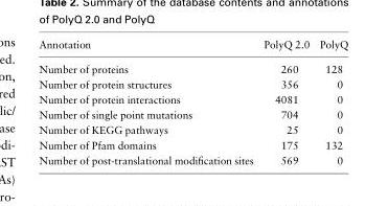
<table><thead><tr><td>Annotation</td><td>PolyQ 2.0</td><td>PolyQ</td></tr></thead><tbody><tr><td>Number of proteins</td><td>260</td><td>128</td></tr><tr><td>Number of protein structures</td><td>356</td><td>0</td></tr><tr><td>Number of protein interactions</td><td>4081</td><td>0</td></tr><tr><td>Number of single point mutations</td><td>704</td><td>0</td></tr><tr><td>Number of KEGG pathways</td><td>25</td><td>0</td></tr><tr><td>Number of Pfam domains</td><td>175</td><td>132</td></tr><tr><td>Number of post-translational modification sites</td><td>569</td><td>0</td></tr></tbody></table>